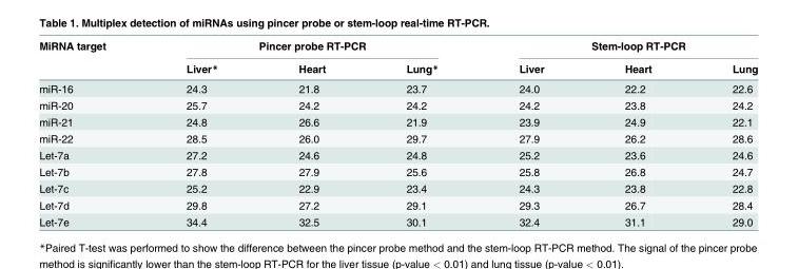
<table><thead><tr><td rowspan="2">MiRNA target</td><td colspan="3">Pincer probe RT-PCR</td><td colspan="3">Stem-loop RT-PCR</td></tr><tr><td>Liver*</td><td>Heart</td><td>Lung*</td><td>Liver</td><td>Heart</td><td>Lung</td></tr></thead><tbody><tr><td>miR-16</td><td>24.3</td><td>21.8</td><td>23.7</td><td>24.0</td><td>22.2</td><td>22.6</td></tr><tr><td>miR-20</td><td>25.7</td><td>24.2</td><td>24.2</td><td>24.2</td><td>23.8</td><td>24.2</td></tr><tr><td>miR-21</td><td>24.8</td><td>26.6</td><td>21.9</td><td>23.9</td><td>24.9</td><td>22.1</td></tr><tr><td>miR-22</td><td>28.5</td><td>26.0</td><td>29.7</td><td>27.9</td><td>26.2</td><td>28.6</td></tr><tr><td>Let-7a</td><td>27.2</td><td>24.6</td><td>24.8</td><td>25.2</td><td>23.6</td><td>24.6</td></tr><tr><td>Let-7b</td><td>27.8</td><td>27.9</td><td>25.6</td><td>25.8</td><td>26.8</td><td>24.7</td></tr><tr><td>Let-7c</td><td>25.2</td><td>22.9</td><td>23.4</td><td>24.3</td><td>23.8</td><td>22.8</td></tr><tr><td>Let-7d</td><td>29.8</td><td>27.2</td><td>29.1</td><td>29.3</td><td>26.7</td><td>28.4</td></tr><tr><td>Let-7e</td><td>34.4</td><td>32.5</td><td>30.1</td><td>32.4</td><td>31.1</td><td>29.0</td></tr></tbody></table>